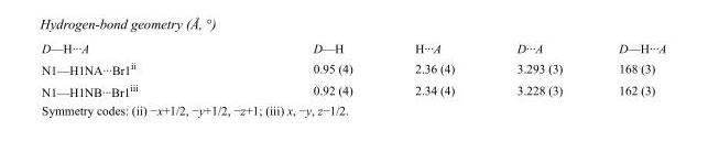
<table><tbody><tr><td>D—H···A</td><td>D—H</td><td>H···A</td><td>D···A</td><td>D—H···A</td></tr><tr><td>N1—H1NA···Br1<sup>ii</sup></td><td>0.95 (4)</td><td>2.36 (4)</td><td>3.293 (3)</td><td>168 (3)</td></tr><tr><td>N1—H1NB···Br1<sup>iii</sup></td><td>0.92 (4)</td><td>2.34 (4)</td><td>3.228 (3)</td><td>162 (3)</td></tr></tbody></table>